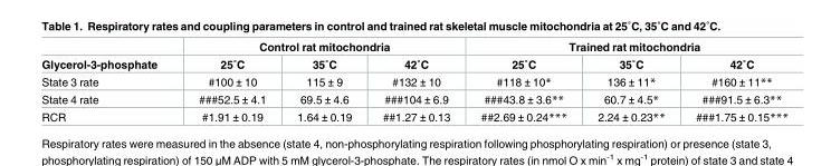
<table><thead><tr><td rowspan="2">Glycerol-3-phosphate</td><td colspan="3">Control rat mitochondria</td><td colspan="3">Trained rat mitochondria</td></tr><tr><td>25˚C</td><td>35˚C</td><td>42˚C</td><td>25˚C</td><td>35˚C</td><td>42˚C</td></tr></thead><tbody><tr><td>State 3 rate</td><td>#100 ± 10</td><td>115 ± 9</td><td>#132 ± 10</td><td>#118 ± 10*</td><td>136 ± 11*</td><td>#160 ± 11**</td></tr><tr><td>State 4 rate</td><td>###52.5 ± 4.1</td><td>69.5 ± 4.6</td><td>###104 ± 6.9</td><td>###43.8 ± 3.6**</td><td>60.7 ± 4.5*</td><td>###91.5 ± 6.3**</td></tr><tr><td>RCR</td><td>#1.91 ± 0.19</td><td>1.64 ± 0.19</td><td>##1.27 ± 0.13</td><td>##2.69 ± 0.24***</td><td>2.24 ± 0.23**</td><td>###1.75 ± 0.15***</td></tr></tbody></table>